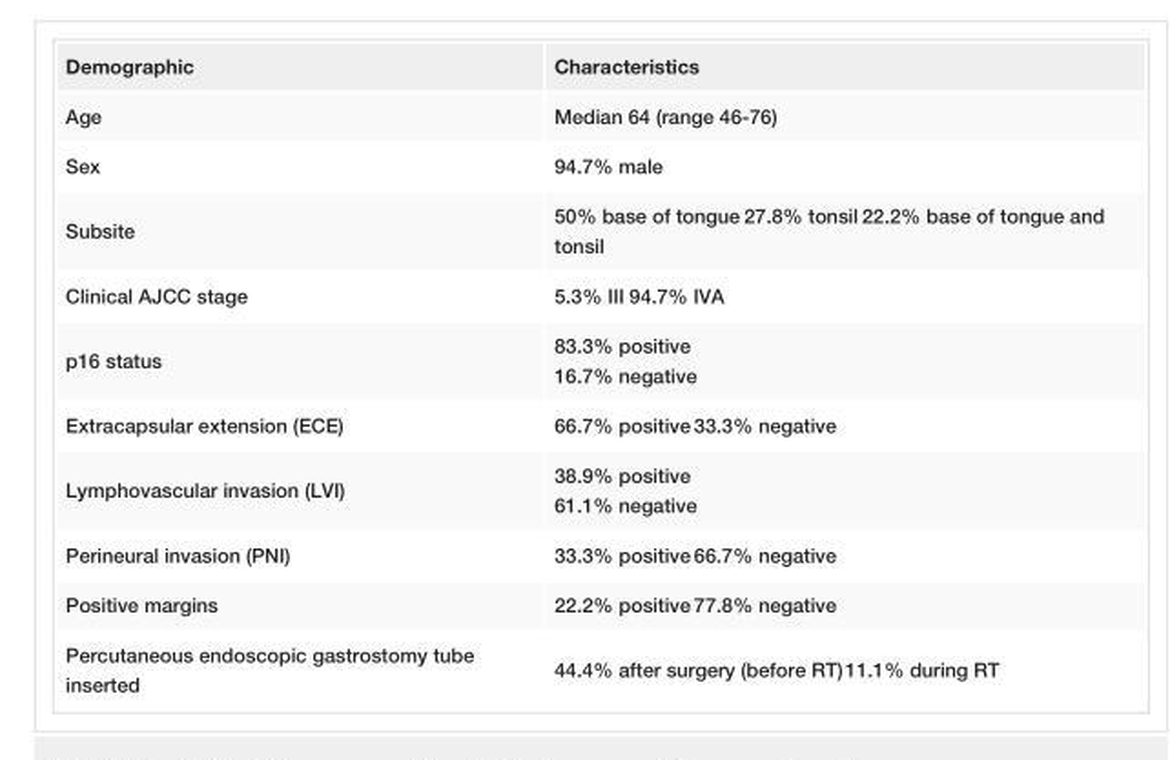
<table><tbody><tr><td>Demographic</td><td>Characteristics</td></tr><tr><td>Age</td><td>Median 64 (range 46-76)</td></tr><tr><td>Sex</td><td>94.7% male</td></tr><tr><td>Subsite</td><td>50% base of tongue 27.8% tonsil 22.2% base of tongue and tonsil</td></tr><tr><td>Clinical AJCC stage</td><td>5.3% III 94.7% IVA</td></tr><tr><td>p16 status</td><td>83.3% positive 16.7% negative</td></tr><tr><td>Extracapsular extension (ECE)</td><td>66.7% positive 33.3% negative</td></tr><tr><td>Lymphovascular invasion (LVI)</td><td>38.9% positive 61.1% negative</td></tr><tr><td>Perineural invasion (PNI)</td><td>33.3% positive 66.7% negative</td></tr><tr><td>Positive margins</td><td>22.2% positive 77.8% negative</td></tr><tr><td>Percutaneous endoscopic gastrostomy tube inserted</td><td>44.4% after surgery (before RT) 11.1% during RT</td></tr></tbody></table>